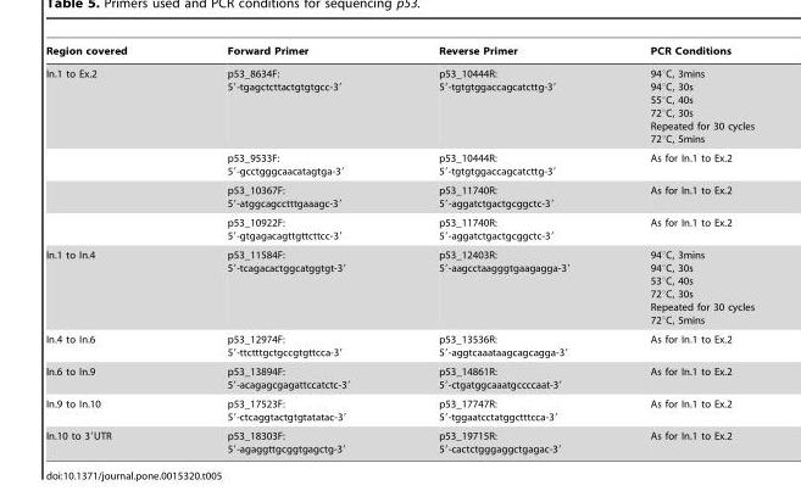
<table><thead><tr><td>Region covered</td><td>Forward Primer</td><td>Reverse Primer</td><td>PCR Conditions</td></tr></thead><tbody><tr><td rowspan="4">In.1 to Ex.2</td><td>p53_8634F: 5′-tgagctcttactgtgtgcc-3′</td><td>p53_10444R: 5′-tgtgtggaccagcatcttg-3′</td><td>94°C, 3mins 94°C, 30s 55°C, 40s 72°C, 30s Repeated for 30 cycles 72°C, 5mins</td></tr><tr><td>p53_9533F: 5′-gcctgggcaacatagtga-3′</td><td>p53_10444R: 5′-tgtgtggaccagcatcttg-3′</td><td>As for In.1 to Ex.2</td></tr><tr><td>p53_10367F: 5′-atggcagcctttgaaagc-3′</td><td>p53_11740R: 5′-aggatctgactgcggctc-3′</td><td>As for In.1 to Ex.2</td></tr><tr><td>p53_10922F: 5′-gtgagacagttgttcttcc-3′</td><td>p53_11740R: 5′-aggatctgactgcggctc-3′</td><td>As for In.1 to Ex.2</td></tr><tr><td>In.1 to In.4</td><td>p53_11584F: 5′-tcagacactggcatggtgt-3′</td><td>p53_12403R: 5′-aagcctaagggtgaagagga-3′</td><td>94°C, 3mins 94°C, 30s 53°C, 40s 72°C, 30s Repeated for 30 cycles 72°C, 5mins</td></tr><tr><td>In.4 to In.6</td><td>p53_12974F: 5′-ttctttgctgccgtgttcca-3′</td><td>p53_13536R: 5′-aggtcaaataagcagcagga-3′</td><td>As for In.1 to Ex.2</td></tr><tr><td>In.6 to In.9</td><td>p53_13894F: 5′-acagagcgagattccatctc-3′</td><td>p53_14861R: 5′-ctgatggcaaatgccccaat-3′</td><td>As for In.1 to Ex.2</td></tr><tr><td>In.9 to In.10</td><td>p53_17523F: 5′-ctcaggtactgtgtatatac-3′</td><td>p53_17747R: 5′-tggaatcctatggctttcca-3′</td><td>As for In.1 to Ex.2</td></tr><tr><td>In.10 to 3′UTR</td><td>p53_18303F: 5′-agaggttgcggtgagctg-3′</td><td>p53_19715R: 5′-cactctgggaggctgagac-3′</td><td>As for In.1 to Ex.2</td></tr></tbody></table>